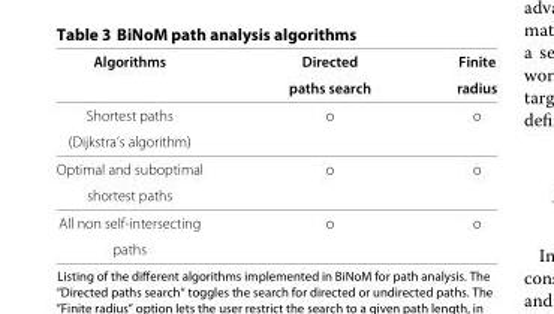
<table><thead><tr><td rowspan="2">Algorithms</td><td rowspan="2">Directed paths search</td><td rowspan="2">Finite radius</td></tr><tr></tr></thead><tbody><tr><td>Shortest paths</td><td>o</td><td>o</td></tr><tr><td colspan="3">(Dijkstra’s algorithm)</td></tr><tr><td>Optimal and suboptimal</td><td>o</td><td>o</td></tr><tr><td colspan="3">shortest paths</td></tr><tr><td>All non self-intersecting</td><td>o</td><td>o</td></tr><tr><td>paths</td><td></td><td></td></tr></tbody></table>